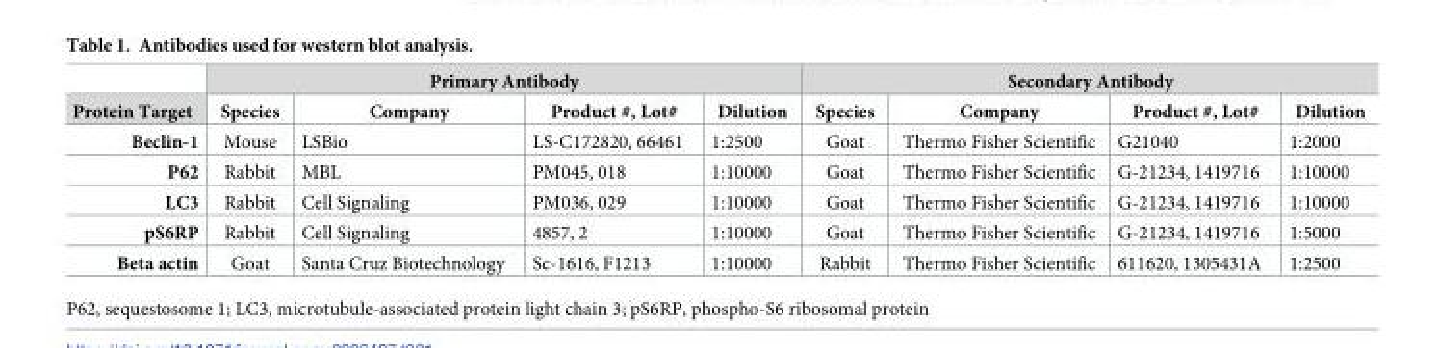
<table><thead><tr><td rowspan="2">Protein Target</td><td colspan="4">Primary Antibody</td><td colspan="4">Secondary Antibody</td></tr><tr><td>Species</td><td>Company</td><td>Product #, Lot#</td><td>Dilution</td><td>Species</td><td>Company</td><td>Product #, Lot#</td><td>Dilution</td></tr></thead><tbody><tr><td>Beclin-1</td><td>Mouse</td><td>LSBio</td><td>LS-C172820, 66461</td><td>1:2500</td><td>Goat</td><td>Thermo Fisher Scientific</td><td>G21040</td><td>1:2000</td></tr><tr><td>P62</td><td>Rabbit</td><td>MBL</td><td>PM045, 018</td><td>1:10000</td><td>Goat</td><td>Thermo Fisher Scientific</td><td>G-21234, 1419716</td><td>1:10000</td></tr><tr><td>LC3</td><td>Rabbit</td><td>Cell Signaling</td><td>PM036, 029</td><td>1:10000</td><td>Goat</td><td>Thermo Fisher Scientific</td><td>G-21234, 1419716</td><td>1:10000</td></tr><tr><td>pS6RP</td><td>Rabbit</td><td>Cell Signaling</td><td>4857, 2</td><td>1:10000</td><td>Goat</td><td>Thermo Fisher Scientific</td><td>G-21234, 1419716</td><td>1:5000</td></tr><tr><td>Beta actin</td><td>Goat</td><td>Santa Cruz Biotechnology</td><td>Sc-1616, F1213</td><td>1:10000</td><td>Rabbit</td><td>Thermo Fisher Scientific</td><td>611620, 1305431A</td><td>1:2500</td></tr></tbody></table>